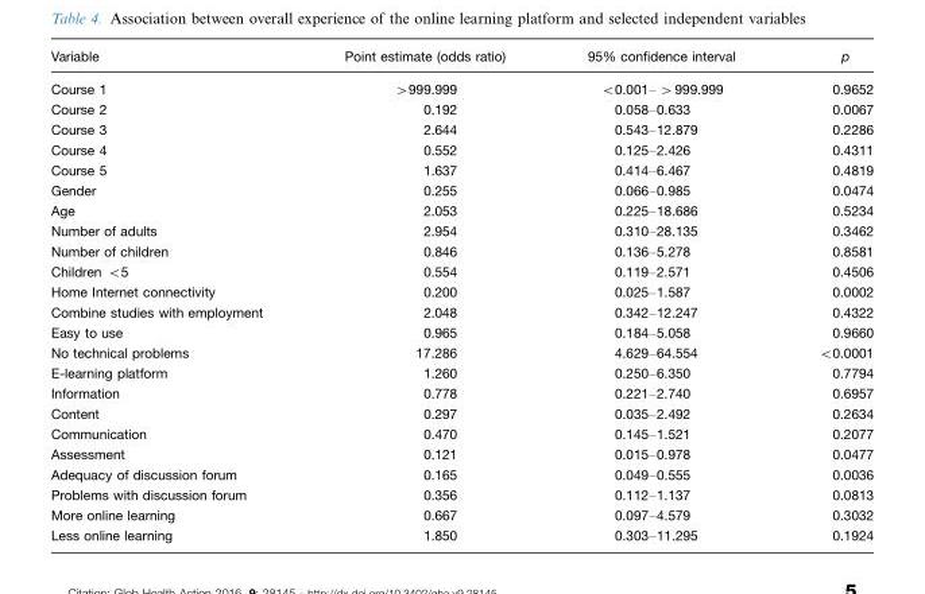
<table><thead><tr><td>Variable</td><td>Point estimate (odds ratio)</td><td>95% confidence interval</td><td>p</td></tr></thead><tbody><tr><td>Course 1</td><td>&gt;999.999</td><td>&lt;0.001– &gt;999.999</td><td>0.9652</td></tr><tr><td>Course 2</td><td>0.192</td><td>0.058–0.633</td><td>0.0067</td></tr><tr><td>Course 3</td><td>2.644</td><td>0.543–12.879</td><td>0.2286</td></tr><tr><td>Course 4</td><td>0.552</td><td>0.125–2.426</td><td>0.4311</td></tr><tr><td>Course 5</td><td>1.637</td><td>0.414–6.467</td><td>0.4819</td></tr><tr><td>Gender</td><td>0.255</td><td>0.066–0.985</td><td>0.0474</td></tr><tr><td>Age</td><td>2.053</td><td>0.225–18.686</td><td>0.5234</td></tr><tr><td>Number of adults</td><td>2.954</td><td>0.310–28.135</td><td>0.3462</td></tr><tr><td>Number of children</td><td>0.846</td><td>0.136–5.278</td><td>0.8581</td></tr><tr><td>Children &lt;5</td><td>0.554</td><td>0.119–2.571</td><td>0.4506</td></tr><tr><td>Home Internet connectivity</td><td>0.200</td><td>0.025–1.587</td><td>0.0002</td></tr><tr><td>Combine studies with employment</td><td>2.048</td><td>0.342–12.247</td><td>0.4322</td></tr><tr><td>Easy to use</td><td>0.965</td><td>0.184–5.058</td><td>0.9660</td></tr><tr><td>No technical problems</td><td>17.286</td><td>4.629–64.554</td><td>&lt;0.0001</td></tr><tr><td>E-learning platform</td><td>1.260</td><td>0.250–6.350</td><td>0.7794</td></tr><tr><td>Information</td><td>0.778</td><td>0.221–2.740</td><td>0.6957</td></tr><tr><td>Content</td><td>0.297</td><td>0.035–2.492</td><td>0.2634</td></tr><tr><td>Communication</td><td>0.470</td><td>0.145–1.521</td><td>0.2077</td></tr><tr><td>Assessment</td><td>0.121</td><td>0.015–0.978</td><td>0.0477</td></tr><tr><td>Adequacy of discussion forum</td><td>0.165</td><td>0.049–0.555</td><td>0.0036</td></tr><tr><td>Problems with discussion forum</td><td>0.356</td><td>0.112–1.137</td><td>0.0813</td></tr><tr><td>More online learning</td><td>0.667</td><td>0.097–4.579</td><td>0.3032</td></tr><tr><td>Less online learning</td><td>1.850</td><td>0.303–11.295</td><td>0.1924</td></tr></tbody></table>